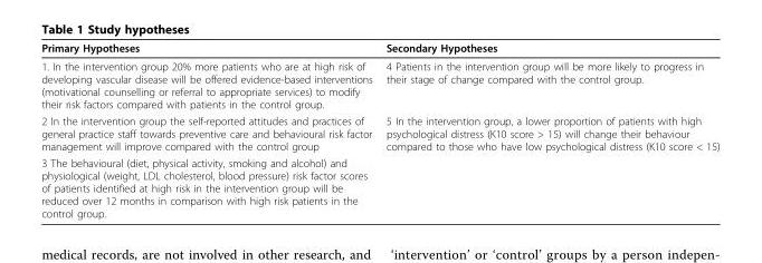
<table><thead><tr><td>Primary Hypotheses</td><td>Secondary Hypotheses</td></tr></thead><tbody><tr><td>1. In the intervention group 20% more patients who are at high risk of developing vascular disease will be offered evidence-based interventions (motivational counselling or referral to appropriate services) to modify their risk factors compared with patients in the control group.</td><td>4 Patients in the intervention group will be more likely to progress in their stage of change compared with the control group.</td></tr><tr><td>2 In the intervention group the self-reported attitudes and practices of general practice staff towards preventive care and behavioural risk factor management will improve compared with the control group</td><td>5 In the intervention group, a lower proportion of patients with high psychological distress (K10 score &gt; 15) will change their behaviour compared to those who have low psychological distress (K10 score &lt; 15)</td></tr><tr><td>3 The behavioural (diet, physical activity, smoking and alcohol) and physiological (weight, LDL cholesterol, blood pressure) risk factor scores of patients identified at high risk in the intervention group will be reduced over 12 months in comparison with high risk patients in the control group.</td><td></td></tr></tbody></table>